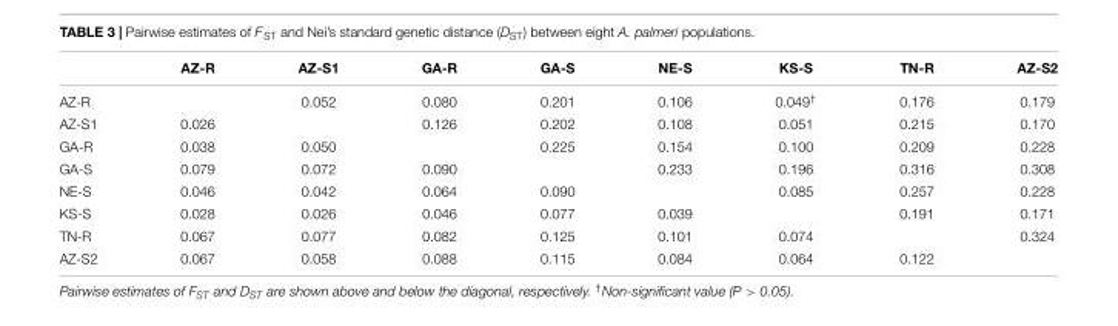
<table><thead><tr><td></td><td>AZ-R</td><td>AZ-S1</td><td>GA-R</td><td>GA-S</td><td>NE-S</td><td>KS-S</td><td>TN-R</td><td>AZ-S2</td></tr></thead><tbody><tr><td>AZ-R</td><td></td><td>0.052</td><td>0.080</td><td>0.201</td><td>0.106</td><td>0.049<sup>†</sup></td><td>0.176</td><td>0.179</td></tr><tr><td>AZ-S1</td><td>0.026</td><td></td><td>0.126</td><td>0.202</td><td>0.108</td><td>0.051</td><td>0.215</td><td>0.170</td></tr><tr><td>GA-R</td><td>0.038</td><td>0.050</td><td></td><td>0.225</td><td>0.154</td><td>0.100</td><td>0.209</td><td>0.228</td></tr><tr><td>GA-S</td><td>0.079</td><td>0.072</td><td>0.090</td><td></td><td>0.233</td><td>0.196</td><td>0.316</td><td>0.308</td></tr><tr><td>NE-S</td><td>0.046</td><td>0.042</td><td>0.064</td><td>0.090</td><td></td><td>0.085</td><td>0.257</td><td>0.228</td></tr><tr><td>KS-S</td><td>0.028</td><td>0.026</td><td>0.046</td><td>0.077</td><td>0.039</td><td></td><td>0.191</td><td>0.171</td></tr><tr><td>TN-R</td><td>0.067</td><td>0.077</td><td>0.082</td><td>0.125</td><td>0.101</td><td>0.074</td><td></td><td>0.324</td></tr><tr><td>AZ-S2</td><td>0.067</td><td>0.058</td><td>0.088</td><td>0.115</td><td>0.084</td><td>0.064</td><td>0.122</td><td></td></tr></tbody></table>